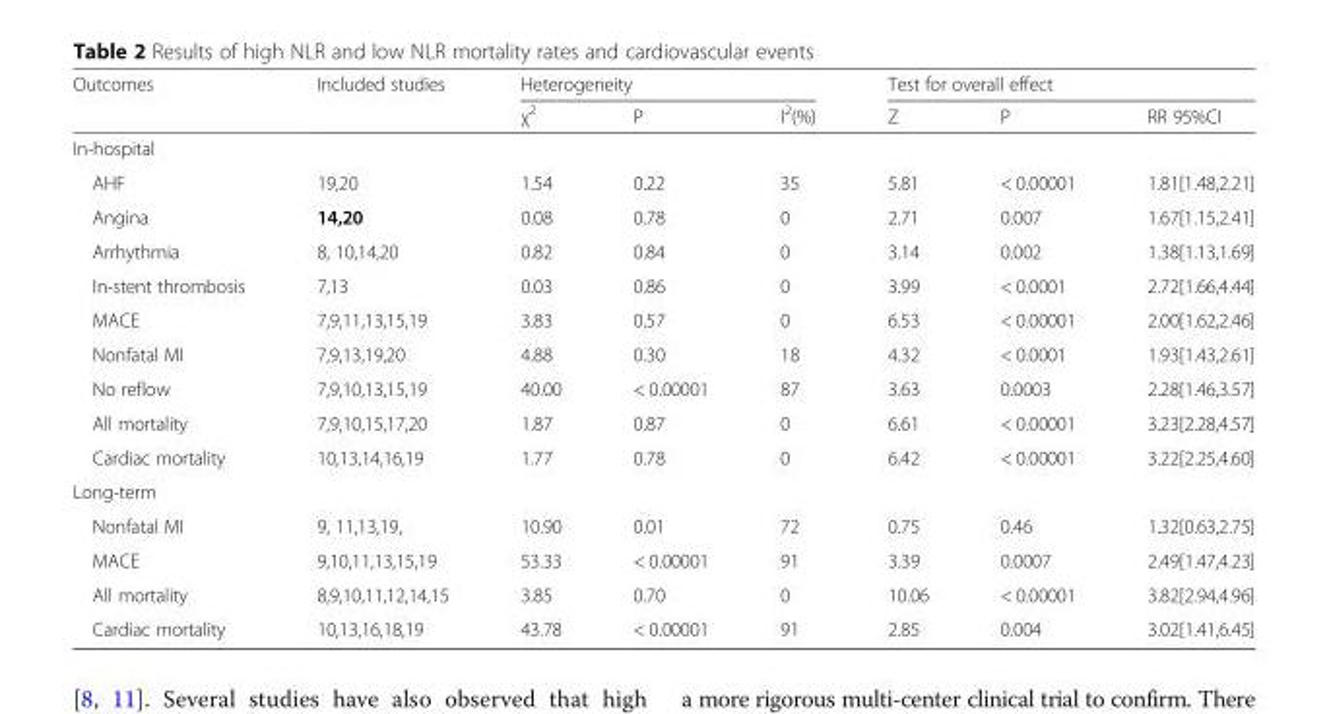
<table><thead><tr><td rowspan="2">Outcomes</td><td rowspan="2">Included studies</td><td colspan="3">Heterogeneity</td><td colspan="3">Test for overall effect</td></tr><tr><td>χ<sup>2</sup></td><td>P</td><td>I<sup>2</sup>(%)</td><td>Z</td><td>P</td><td>RR 95%CI</td></tr></thead><tbody><tr><td colspan="8">In-hospital</td></tr><tr><td>AHF</td><td>19,20</td><td>1.54</td><td>0.22</td><td>35</td><td>5.81</td><td>&lt; 0.00001</td><td>1.81[1.48,2.21]</td></tr><tr><td>Angina</td><td>14,20</td><td>0.08</td><td>0.78</td><td>0</td><td>2.71</td><td>0.007</td><td>1.67[1.15,2.41]</td></tr><tr><td>Arrhythmia</td><td>8, 10,14,20</td><td>0.82</td><td>0.84</td><td>0</td><td>3.14</td><td>0.002</td><td>1.38[1.13,1.69]</td></tr><tr><td>In-stent thrombosis</td><td>7,13</td><td>0.03</td><td>0.86</td><td>0</td><td>3.99</td><td>&lt; 0.0001</td><td>2.72[1.66,4.44]</td></tr><tr><td>MACE</td><td>7,9,11,13,15,19</td><td>3.83</td><td>0.57</td><td>0</td><td>6.53</td><td>&lt; 0.00001</td><td>2.00[1.62,2.46]</td></tr><tr><td>Nonfatal MI</td><td>7,9,13,19,20</td><td>4.88</td><td>0.30</td><td>18</td><td>4.32</td><td>&lt; 0.0001</td><td>1.93[1.43,2.61]</td></tr><tr><td>No reflow</td><td>7,9,10,13,15,19</td><td>40.00</td><td>&lt; 0.00001</td><td>87</td><td>3.63</td><td>0.0003</td><td>2.28[1.46,3.57]</td></tr><tr><td>All mortality</td><td>7,9,10,15,17,20</td><td>1.87</td><td>0.87</td><td>0</td><td>6.61</td><td>&lt; 0.00001</td><td>3.23[2.28,4.57]</td></tr><tr><td>Cardiac mortality</td><td>10,13,14,16,19</td><td>1.77</td><td>0.78</td><td>0</td><td>6.42</td><td>&lt; 0.00001</td><td>3.22[2.25,4.60]</td></tr><tr><td colspan="8">Long-term</td></tr><tr><td>Nonfatal MI</td><td>9, 11,13,19,</td><td>10.90</td><td>0.01</td><td>72</td><td>0.75</td><td>0.46</td><td>1.32[0.63,2.75]</td></tr><tr><td>MACE</td><td>9,10,11,13,15,19</td><td>53.33</td><td>&lt; 0.00001</td><td>91</td><td>3.39</td><td>0.0007</td><td>2.49[1.47,4.23]</td></tr><tr><td>All mortality</td><td>8,9,10,11,12,14,15</td><td>3.85</td><td>0.70</td><td>0</td><td>10.06</td><td>&lt; 0.00001</td><td>3.82[2.94,4.96]</td></tr><tr><td>Cardiac mortality</td><td>10,13,16,18,19</td><td>43.78</td><td>&lt; 0.00001</td><td>91</td><td>2.85</td><td>0.004</td><td>3.02[1.41,6.45]</td></tr></tbody></table>